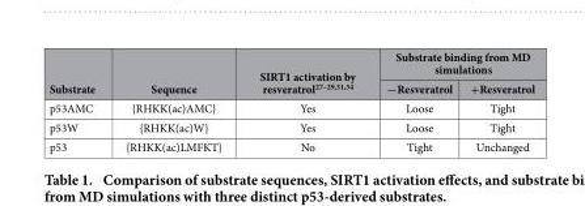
<table><thead><tr><td rowspan="2">Substrate</td><td rowspan="2">Sequence</td><td rowspan="2">SIRT1 activation by resveratrol27–29,31,34</td><td colspan="2">Substrate binding from MD simulations</td></tr><tr><td>−Resveratrol</td><td>+Resveratrol</td></tr></thead><tbody><tr><td>p53AMC</td><td>{RHKK(ac)AMC}</td><td>Yes</td><td>Loose</td><td>Tight</td></tr><tr><td>p53W</td><td>{RHKK(ac)W}</td><td>Yes</td><td>Loose</td><td>Tight</td></tr><tr><td>p53</td><td>{RHKK(ac)LMFKT}</td><td>No</td><td>Tight</td><td>Unchanged</td></tr></tbody></table>